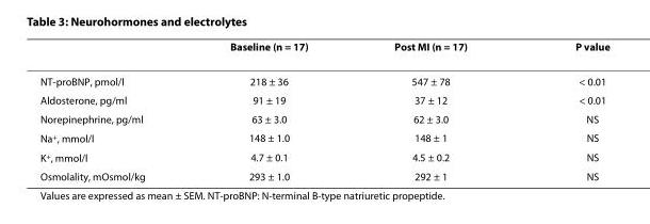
<table><thead><tr><td></td><td>Baseline (n = 17)</td><td>Post MI (n = 17)</td><td>P value</td></tr></thead><tbody><tr><td>NT-proBNP, pmol/l</td><td>218 ± 36</td><td>547 ± 78</td><td>&lt; 0.01</td></tr><tr><td>Aldosterone, pg/ml</td><td>91 ± 19</td><td>37 ± 12</td><td>&lt; 0.01</td></tr><tr><td>Norepinephrine, pg/ml</td><td>63 ± 3.0</td><td>62 ± 3.0</td><td>NS</td></tr><tr><td>Na<sup>+</sup>, mmol/l</td><td>148 ± 1.0</td><td>148 ± 1</td><td>NS</td></tr><tr><td>K<sup>+</sup>, mmol/l</td><td>4.7 ± 0.1</td><td>4.5 ± 0.2</td><td>NS</td></tr><tr><td>Osmolality, mOsmol/kg</td><td>293 ± 1.0</td><td>292 ± 1</td><td>NS</td></tr></tbody></table>